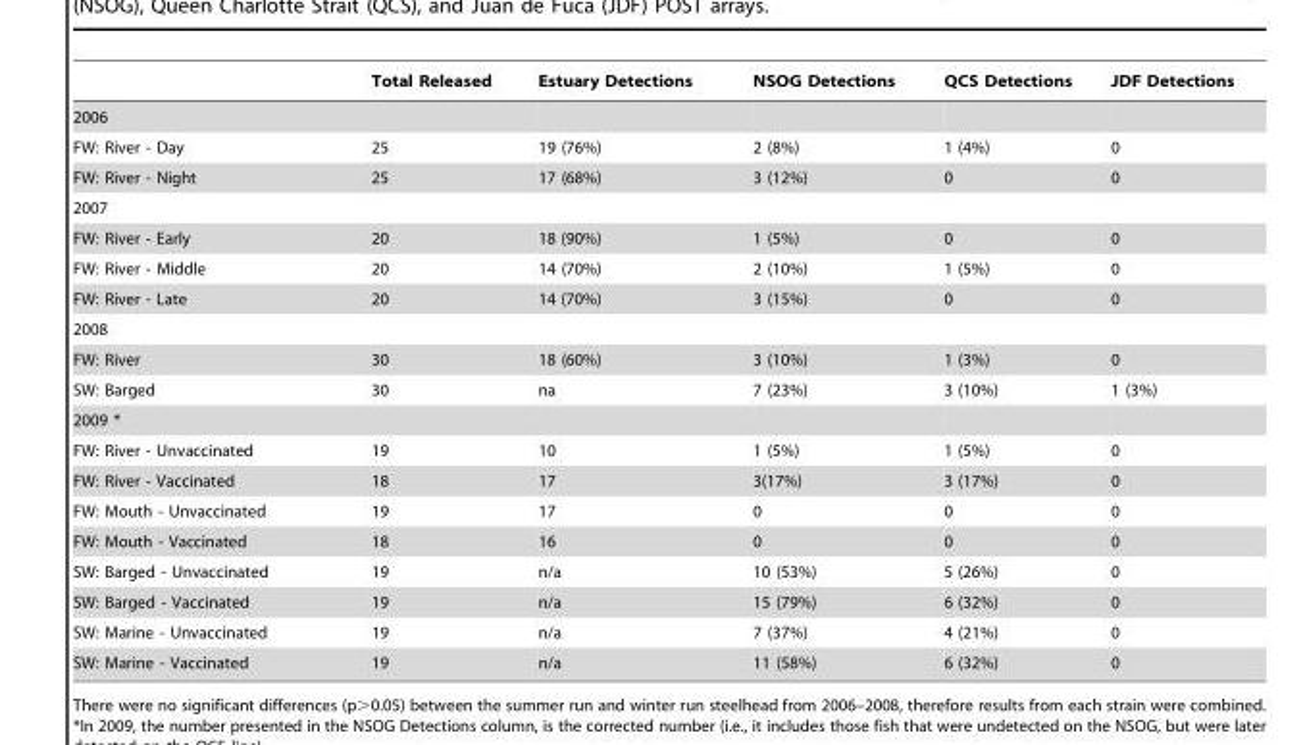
<table><thead><tr><td></td><td>Total Released</td><td>Estuary Detections</td><td>NSOG Detections</td><td>QCS Detections</td><td>JDF Detections</td></tr></thead><tbody><tr><td colspan="6">2006</td></tr><tr><td>FW: River - Day</td><td>25</td><td>19 (76%)</td><td>2 (8%)</td><td>1 (4%)</td><td>0</td></tr><tr><td>FW: River - Night</td><td>25</td><td>17 (68%)</td><td>3 (12%)</td><td>0</td><td>0</td></tr><tr><td colspan="6">2007</td></tr><tr><td>FW: River - Early</td><td>20</td><td>18 (90%)</td><td>1 (5%)</td><td>0</td><td>0</td></tr><tr><td>FW: River - Middle</td><td>20</td><td>14 (70%)</td><td>2 (10%)</td><td>1 (5%)</td><td>0</td></tr><tr><td>FW: River - Late</td><td>20</td><td>14 (70%)</td><td>3 (15%)</td><td>0</td><td>0</td></tr><tr><td colspan="6">2008</td></tr><tr><td>FW: River</td><td>30</td><td>18 (60%)</td><td>3 (10%)</td><td>1 (3%)</td><td>0</td></tr><tr><td>SW: Barged</td><td>30</td><td>na</td><td>7 (23%)</td><td>3 (10%)</td><td>1 (3%)</td></tr><tr><td colspan="6">2009 *</td></tr><tr><td>FW: River - Unvaccinated</td><td>19</td><td>10</td><td>1 (5%)</td><td>1 (5%)</td><td>0</td></tr><tr><td>FW: River - Vaccinated</td><td>18</td><td>17</td><td>3(17%)</td><td>3 (17%)</td><td>0</td></tr><tr><td>FW: Mouth - Unvaccinated</td><td>19</td><td>17</td><td>0</td><td>0</td><td>0</td></tr><tr><td>FW: Mouth - Vaccinated</td><td>18</td><td>16</td><td>0</td><td>0</td><td>0</td></tr><tr><td>SW: Barged - Unvaccinated</td><td>19</td><td>n/a</td><td>10 (53%)</td><td>5 (26%)</td><td>0</td></tr><tr><td>SW: Barged - Vaccinated</td><td>19</td><td>n/a</td><td>15 (79%)</td><td>6 (32%)</td><td>0</td></tr><tr><td>SW: Marine - Unvaccinated</td><td>19</td><td>n/a</td><td>7 (37%)</td><td>4 (21%)</td><td>0</td></tr><tr><td>SW: Marine - Vaccinated</td><td>19</td><td>n/a</td><td>11 (58%)</td><td>6 (32%)</td><td>0</td></tr></tbody></table>